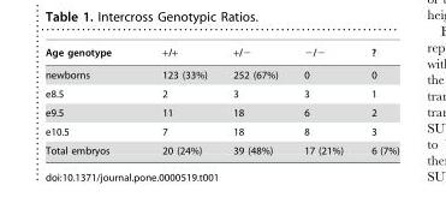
<table><thead><tr><td>Age genotype</td><td>+/+</td><td>+/−</td><td>−/−</td><td>?</td></tr></thead><tbody><tr><td>newborns</td><td>123 (33%)</td><td>252 (67%)</td><td>0</td><td>0</td></tr><tr><td>e8.5</td><td>2</td><td>3</td><td>3</td><td>1</td></tr><tr><td>e9.5</td><td>11</td><td>18</td><td>6</td><td>2</td></tr><tr><td>e10.5</td><td>7</td><td>18</td><td>8</td><td>3</td></tr><tr><td>Total embryos</td><td>20 (24%)</td><td>39 (48%)</td><td>17 (21%)</td><td>6 (7%)</td></tr></tbody></table>